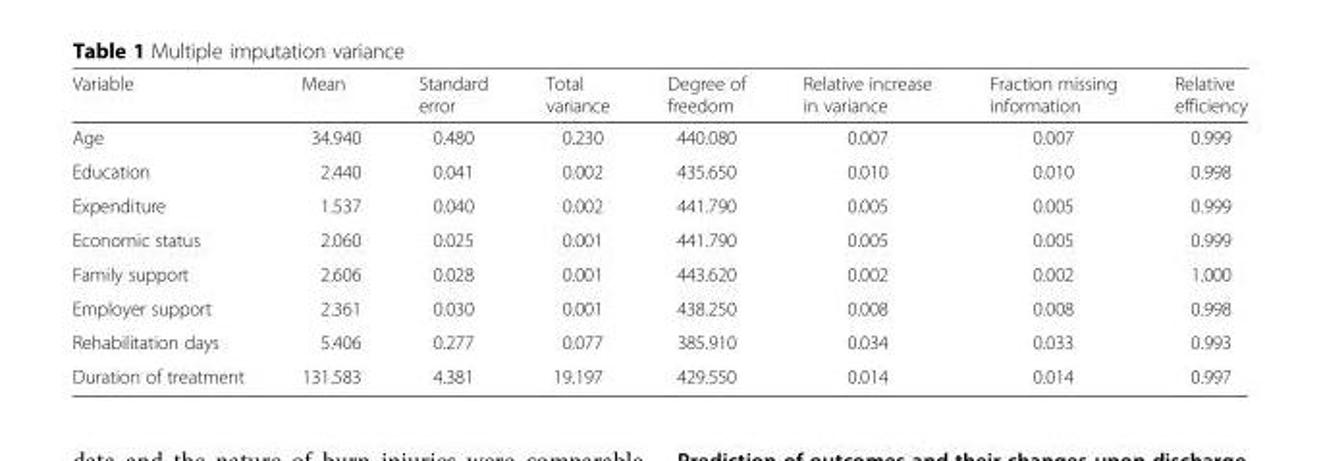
<table><thead><tr><td>Variable</td><td>Mean</td><td>Standard error</td><td>Total variance</td><td>Degree of freedom</td><td>Relative increase in variance</td><td>Fraction missing information</td><td>Relative efficiency</td></tr></thead><tbody><tr><td>Age</td><td>34.940</td><td>0.480</td><td>0.230</td><td>440.080</td><td>0.007</td><td>0.007</td><td>0.999</td></tr><tr><td>Education</td><td>2.440</td><td>0.041</td><td>0.002</td><td>435.650</td><td>0.010</td><td>0.010</td><td>0.998</td></tr><tr><td>Expenditure</td><td>1.537</td><td>0.040</td><td>0.002</td><td>441.790</td><td>0.005</td><td>0.005</td><td>0.999</td></tr><tr><td>Economic status</td><td>2.060</td><td>0.025</td><td>0.001</td><td>441.790</td><td>0.005</td><td>0.005</td><td>0.999</td></tr><tr><td>Family support</td><td>2.606</td><td>0.028</td><td>0.001</td><td>443.620</td><td>0.002</td><td>0.002</td><td>1.000</td></tr><tr><td>Employer support</td><td>2.361</td><td>0.030</td><td>0.001</td><td>438.250</td><td>0.008</td><td>0.008</td><td>0.998</td></tr><tr><td>Rehabilitation days</td><td>5.406</td><td>0.277</td><td>0.077</td><td>385.910</td><td>0.034</td><td>0.033</td><td>0.993</td></tr><tr><td>Duration of treatment</td><td>131.583</td><td>4.381</td><td>19.197</td><td>429.550</td><td>0.014</td><td>0.014</td><td>0.997</td></tr></tbody></table>